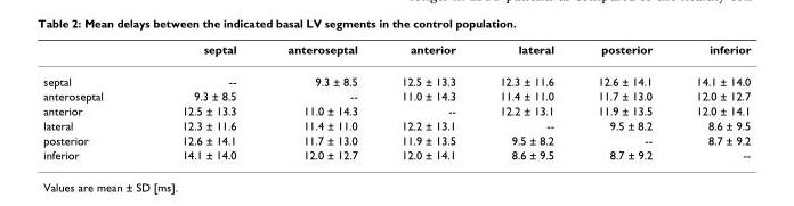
<table><thead><tr><td></td><td>septal</td><td>anteroseptal</td><td>anterior</td><td>lateral</td><td>posterior</td><td>inferior</td></tr></thead><tbody><tr><td>septal</td><td>--</td><td>9.3 ± 8.5</td><td>12.5 ± 13.3</td><td>12.3 ± 11.6</td><td>12.6 ± 14.1</td><td>14.1 ± 14.0</td></tr><tr><td>anteroseptal</td><td>9.3 ± 8.5</td><td>--</td><td>11.0 ± 14.3</td><td>11.4 ± 11.0</td><td>11.7 ± 13.0</td><td>12.0 ± 12.7</td></tr><tr><td>anterior</td><td>12.5 ± 13.3</td><td>11.0 ± 14.3</td><td>--</td><td>12.2 ± 13.1</td><td>11.9 ± 13.5</td><td>12.0 ± 14.1</td></tr><tr><td>lateral</td><td>12.3 ± 11.6</td><td>11.4 ± 11.0</td><td>12.2 ± 13.1</td><td>--</td><td>9.5 ± 8.2</td><td>8.6 ± 9.5</td></tr><tr><td>posterior</td><td>12.6 ± 14.1</td><td>11.7 ± 13.0</td><td>11.9 ± 13.5</td><td>9.5 ± 8.2</td><td>--</td><td>8.7 ± 9.2</td></tr><tr><td>inferior</td><td>14.1 ± 14.0</td><td>12.0 ± 12.7</td><td>12.0 ± 14.1</td><td>8.6 ± 9.5</td><td>8.7 ± 9.2</td><td>--</td></tr></tbody></table>